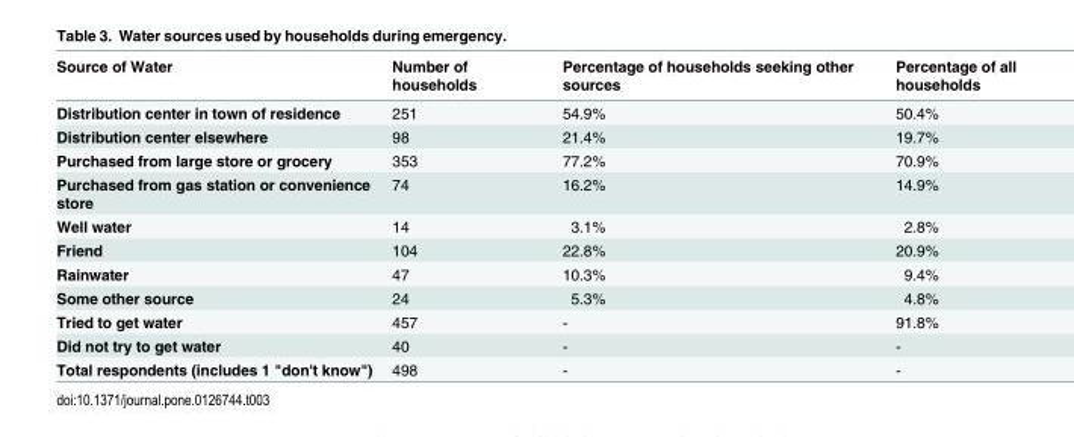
<table><thead><tr><td>Source of Water</td><td>Number of households</td><td>Percentage of households seeking other sources</td><td>Percentage of all households</td></tr></thead><tbody><tr><td>Distribution center in town of residence</td><td>251</td><td>54.9%</td><td>50.4%</td></tr><tr><td>Distribution center elsewhere</td><td>98</td><td>21.4%</td><td>19.7%</td></tr><tr><td>Purchased from large store or grocery</td><td>353</td><td>77.2%</td><td>70.9%</td></tr><tr><td>Purchased from gas station or convenience store</td><td>74</td><td>16.2%</td><td>14.9%</td></tr><tr><td>Well water</td><td>14</td><td>3.1%</td><td>2.8%</td></tr><tr><td>Friend</td><td>104</td><td>22.8%</td><td>20.9%</td></tr><tr><td>Rainwater</td><td>47</td><td>10.3%</td><td>9.4%</td></tr><tr><td>Some other source</td><td>24</td><td>5.3%</td><td>4.8%</td></tr><tr><td>Tried to get water</td><td>457</td><td>-</td><td>91.8%</td></tr><tr><td>Did not try to get water</td><td>40</td><td>-</td><td>-</td></tr><tr><td>Total respondents (includes 1 &quot;don&#x27;t know&quot;)</td><td>498</td><td>-</td><td>-</td></tr></tbody></table>